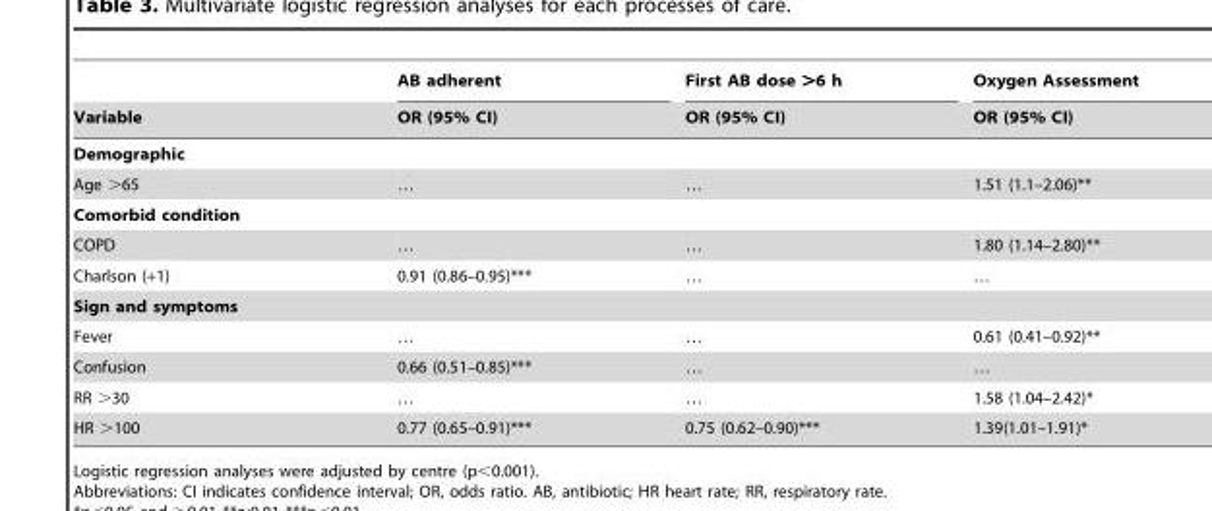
<table><thead><tr><td rowspan="2">Variable</td><td rowspan="2">AB adherent OR (95% CI)</td><td rowspan="2">First AB dose &gt;6 h OR (95% CI)</td><td rowspan="2">Oxygen Assessment OR (95% CI)</td></tr><tr></tr></thead><tbody><tr><td colspan="4">Demographic</td></tr><tr><td>Age &gt;65</td><td>…</td><td>…</td><td>1.51 (1.1–2.06)**</td></tr><tr><td colspan="4">Comorbid condition</td></tr><tr><td>COPD</td><td>…</td><td>…</td><td>1.80 (1.14–2.80)**</td></tr><tr><td>Charlson (+1)</td><td>0.91 (0.86–0.95)***</td><td>…</td><td>…</td></tr><tr><td colspan="4">Sign and symptoms</td></tr><tr><td>Fever</td><td>…</td><td>…</td><td>0.61 (0.41–0.92)**</td></tr><tr><td>Confusion</td><td>0.66 (0.51–0.85)***</td><td>…</td><td>…</td></tr><tr><td>RR &gt;30</td><td>…</td><td>…</td><td>1.58 (1.04–2.42)*</td></tr><tr><td>HR &gt;100</td><td>0.77 (0.65–0.91)***</td><td>0.75 (0.62–0.90)***</td><td>1.39(1.01–1.91)*</td></tr></tbody></table>